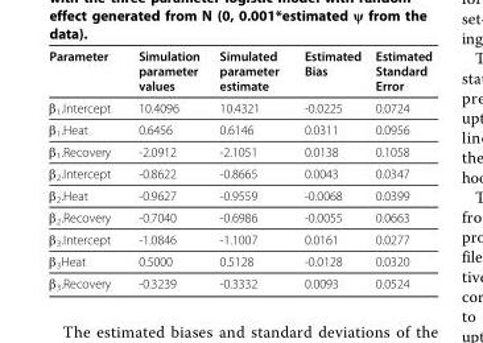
<table><thead><tr><td>Parameter</td><td>Simulation parameter values</td><td>Simulated parameter estimate</td><td>Estimated Bias</td><td>Estimated Standard Error</td></tr></thead><tbody><tr><td>β<sub>1</sub>.Intercept</td><td>10.4096</td><td>10.4321</td><td>-0.0225</td><td>0.0724</td></tr><tr><td>β<sub>1</sub>.Heat</td><td>0.6456</td><td>0.6146</td><td>0.0311</td><td>0.0956</td></tr><tr><td>β<sub>1</sub>.Recovery</td><td>-2.0912</td><td>-2.1051</td><td>0.0138</td><td>0.1058</td></tr><tr><td>β<sub>2</sub>.Intercept</td><td>-0.8622</td><td>-0.8665</td><td>0.0043</td><td>0.0347</td></tr><tr><td>β<sub>2</sub>.Heat</td><td>-0.9627</td><td>-0.9559</td><td>-0.0068</td><td>0.0399</td></tr><tr><td>β<sub>2</sub>.Recovery</td><td>-0.7040</td><td>-0.6986</td><td>-0.0055</td><td>0.0663</td></tr><tr><td>β<sub>3</sub>.Intercept</td><td>-1.0846</td><td>-1.1007</td><td>0.0161</td><td>0.0277</td></tr><tr><td>β<sub>3</sub>Heat</td><td>0.5000</td><td>0.5128</td><td>-0.0128</td><td>0.0320</td></tr><tr><td>β<sub>3</sub>.Recovery</td><td>-0.3239</td><td>-0.3332</td><td>0.0093</td><td>0.0524</td></tr></tbody></table>